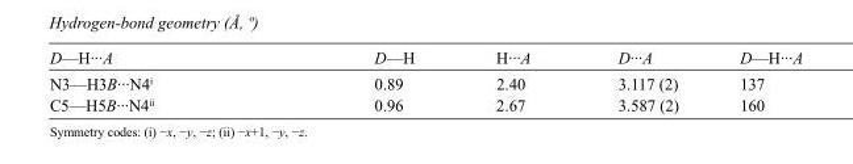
<table><tbody><tr><td>D—H···A</td><td>D—H</td><td>H···A</td><td>D···A</td><td>D—H···A</td></tr><tr><td>N3—H3B···N4<sup>i</sup></td><td>0.89</td><td>2.40</td><td>3.117 (2)</td><td>137</td></tr><tr><td>C5—H5B···N4<sup>ii</sup></td><td>0.96</td><td>2.67</td><td>3.587 (2)</td><td>160</td></tr></tbody></table>